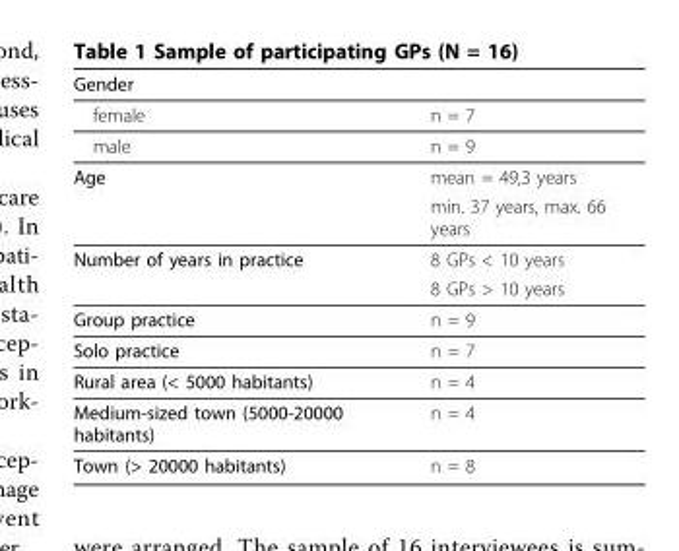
<table><thead><tr><td>Gender</td><td></td></tr></thead><tbody><tr><td>female</td><td>n = 7</td></tr><tr><td>male</td><td>n = 9</td></tr><tr><td rowspan="2">Age</td><td>mean = 49,3 years</td></tr><tr><td>min. 37 years, max. 66 years</td></tr><tr><td rowspan="2">Number of years in practice</td><td>8 GPs &lt; 10 years</td></tr><tr><td>8 GPs &gt; 10 years</td></tr><tr><td>Group practice</td><td>n = 9</td></tr><tr><td>Solo practice</td><td>n = 7</td></tr><tr><td>Rural area (&lt; 5000 habitants)</td><td>n = 4</td></tr><tr><td>Medium-sized town (5000-20000 habitants)</td><td>n = 4</td></tr><tr><td>Town (&gt; 20000 habitants)</td><td>n = 8</td></tr></tbody></table>